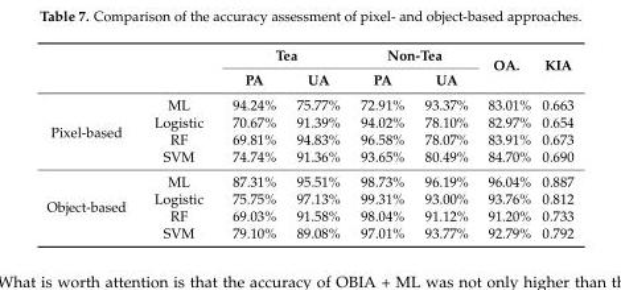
<table><thead><tr><td rowspan="2"></td><td rowspan="2"></td><td colspan="2">Tea</td><td colspan="2">Non-Tea</td><td rowspan="2">OA.</td><td rowspan="2">KIA</td></tr><tr><td>PA</td><td>UA</td><td>PA</td><td>UA</td></tr></thead><tbody><tr><td rowspan="4">Pixel-based</td><td>ML</td><td>94.24%</td><td>75.77%</td><td>72.91%</td><td>93.37%</td><td>83.01%</td><td>0.663</td></tr><tr><td>Logistic</td><td>70.67%</td><td>91.39%</td><td>94.02%</td><td>78.10%</td><td>82.97%</td><td>0.654</td></tr><tr><td>RF</td><td>69.81%</td><td>94.83%</td><td>96.58%</td><td>78.07%</td><td>83.91%</td><td>0.673</td></tr><tr><td>SVM</td><td>74.74%</td><td>91.36%</td><td>93.65%</td><td>80.49%</td><td>84.70%</td><td>0.690</td></tr><tr><td rowspan="4">Object-based</td><td>ML</td><td>87.31%</td><td>95.51%</td><td>98.73%</td><td>96.19%</td><td>96.04%</td><td>0.887</td></tr><tr><td>Logistic</td><td>75.75%</td><td>97.13%</td><td>99.31%</td><td>93.00%</td><td>93.76%</td><td>0.812</td></tr><tr><td>RF</td><td>69.03%</td><td>91.58%</td><td>98.04%</td><td>91.12%</td><td>91.20%</td><td>0.733</td></tr><tr><td>SVM</td><td>79.10%</td><td>89.08%</td><td>97.01%</td><td>93.77%</td><td>92.79%</td><td>0.792</td></tr></tbody></table>